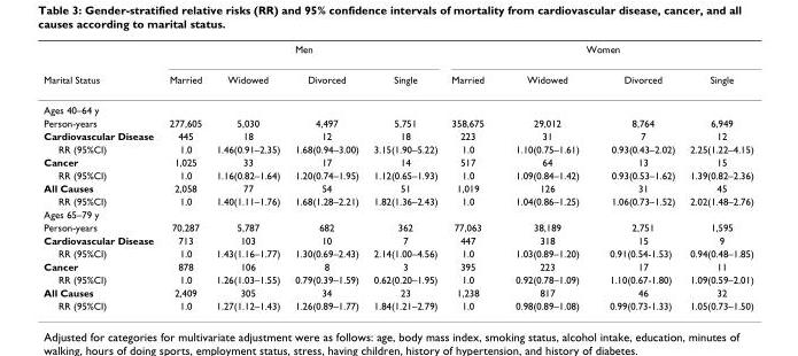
<table><thead><tr><td rowspan="2">Marital Status</td><td colspan="4">Men</td><td colspan="4">Women</td></tr><tr><td>Married</td><td>Widowed</td><td>Divorced</td><td>Single</td><td>Married</td><td>Widowed</td><td>Divorced</td><td>Single</td></tr></thead><tbody><tr><td colspan="9">Ages 40–64 y</td></tr><tr><td>Person-years</td><td>277,605</td><td>5,030</td><td>4,497</td><td>5,751</td><td>358,675</td><td>29,012</td><td>8,764</td><td>6,949</td></tr><tr><td>Cardiovascular Disease</td><td>445</td><td>18</td><td>12</td><td>18</td><td>223</td><td>31</td><td>7</td><td>12</td></tr><tr><td>RR (95%CI)</td><td>1.0</td><td>1.46(0.91–2.35)</td><td>1.68(0.94–3.00)</td><td>3.15(1.90–5.22)</td><td>1.0</td><td>1.10(0.75–1.61)</td><td>0.93(0.43–2.02)</td><td>2.25(1.22–4.15)</td></tr><tr><td>Cancer</td><td>1,025</td><td>33</td><td>17</td><td>14</td><td>517</td><td>64</td><td>13</td><td>15</td></tr><tr><td>RR (95%CI)</td><td>1.0</td><td>1.16(0.82–1.64)</td><td>1.20(0.74–1.95)</td><td>1.12(0.65–1.93)</td><td>1.0</td><td>1.09(0.84–1.42)</td><td>0.93(0.53–1.62)</td><td>1.39(0.82–2.36)</td></tr><tr><td>All Causes</td><td>2,058</td><td>77</td><td>54</td><td>51</td><td>1,019</td><td>126</td><td>31</td><td>45</td></tr><tr><td>RR (95%CI)</td><td>1.0</td><td>1.40(1.11–1.76)</td><td>1.68(1.28–2.21)</td><td>1.82(1.36–2.43)</td><td>1.0</td><td>1.04(0.86–1.25)</td><td>1.06(0.73–1.52)</td><td>2.02(1.48–2.76)</td></tr><tr><td colspan="9">Ages 65–79 y</td></tr><tr><td>Person-years</td><td>70,287</td><td>5,787</td><td>682</td><td>362</td><td>77,063</td><td>38,189</td><td>2,751</td><td>1,595</td></tr><tr><td>Cardiovascular Disease</td><td>713</td><td>103</td><td>10</td><td>7</td><td>447</td><td>318</td><td>15</td><td>9</td></tr><tr><td>RR (95%CI)</td><td>1.0</td><td>1.43(1.16–1.77)</td><td>1.30(0.69–2.43)</td><td>2.14(1.00–4.56)</td><td>1.0</td><td>1.03(0.89–1.20)</td><td>0.91(0.54-1.53)</td><td>0.94(0.48–1.85)</td></tr><tr><td>Cancer</td><td>878</td><td>106</td><td>8</td><td>3</td><td>395</td><td>223</td><td>17</td><td>11</td></tr><tr><td>RR (95%CI)</td><td>1.0</td><td>1.26(1.03–1.55)</td><td>0.79(0.39–1.59)</td><td>0.62(0.20–1.95)</td><td>1.0</td><td>0.92(0.78–1.09)</td><td>1.10(0.67-1.80)</td><td>1.09(0.59–2.01)</td></tr><tr><td>All Causes</td><td>2,409</td><td>305</td><td>34</td><td>23</td><td>1,238</td><td>817</td><td>46</td><td>32</td></tr><tr><td>RR (95%CI)</td><td>1.0</td><td>1.27(1.12–1.43)</td><td>1.26(0.89–1.77)</td><td>1.84(1.21–2.79)</td><td>1.0</td><td>0.98(0.89–1.08)</td><td>0.99(0.73-1.33)</td><td>1.05(0.73–1.50)</td></tr></tbody></table>